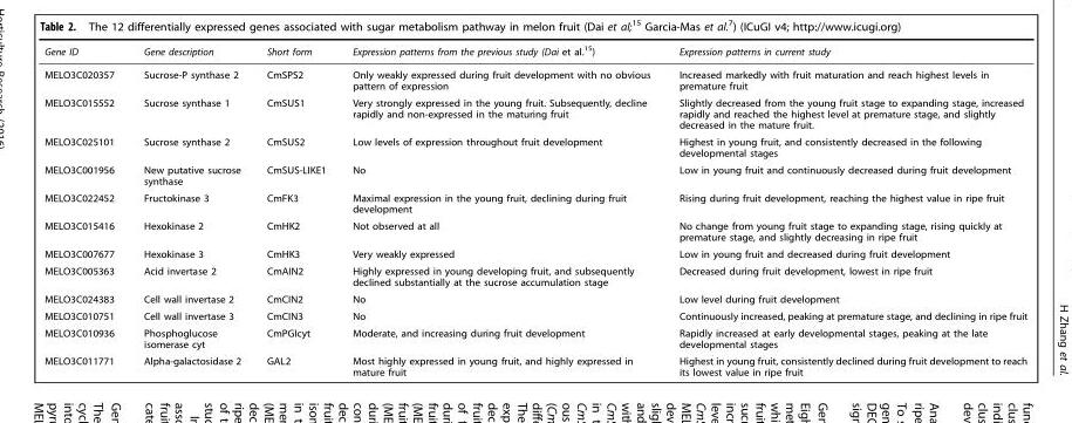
<table><thead><tr><td>Gene ID</td><td>Gene description</td><td>Short form</td><td>Expression patterns from the previous study (Dai et al.<sup>15</sup>)</td><td>Expression patterns in current study</td></tr></thead><tbody><tr><td>MELO3C020357</td><td>Sucrose-P synthase 2</td><td>CmSPS2</td><td>Only weakly expressed during fruit development with no obvious pattern of expression</td><td>Increased markedly with fruit maturation and reach highest levels in premature fruit</td></tr><tr><td>MELO3C015552</td><td>Sucrose synthase 1</td><td>CmSUS1</td><td>Very strongly expressed in the young fruit. Subsequently, decline rapidly and non-expressed in the maturing fruit</td><td>Slightly decreased from the young fruit stage to expanding stage, increased rapidly and reached the highest level at premature stage, and slightly decreased in the mature fruit.</td></tr><tr><td>MELO3C025101</td><td>Sucrose synthase 2</td><td>CmSUS2</td><td>Low levels of expression throughout fruit development</td><td>Highest in young fruit, and consistently decreased in the following developmental stages</td></tr><tr><td>MELO3C001956</td><td>New putative sucrose synthase</td><td>CmSUS-LIKE1</td><td>No</td><td>Low in young fruit and continuously decreased during fruit development</td></tr><tr><td>MELO3C022452</td><td>Fructokinase 3</td><td>CmFK3</td><td>Maximal expression in the young fruit, declining during fruit development</td><td>Rising during fruit development, reaching the highest value in ripe fruit</td></tr><tr><td>MELO3C015416</td><td>Hexokinase 2</td><td>CmHK2</td><td>Not observed at all</td><td>No change from young fruit stage to expanding stage, rising quickly at premature stage, and slightly decreasing in ripe fruit</td></tr><tr><td>MELO3C007677</td><td>Hexokinase 3</td><td>CmHK3</td><td>Very weakly expressed</td><td>Low in young fruit and decreased during fruit development</td></tr><tr><td>MELO3C005363</td><td>Acid invertase 2</td><td>CmAIN2</td><td>Highly expressed in young developing fruit, and subsequently declined substantially at the sucrose accumulation stage</td><td>Decreased during fruit development, lowest in ripe fruit</td></tr><tr><td>MELO3C024383</td><td>Cell wall invertase 2</td><td>CmCIN2</td><td>No</td><td>Low level during fruit development</td></tr><tr><td>MELO3C010751</td><td>Cell wall invertase 3</td><td>CmCIN3</td><td>No</td><td>Continuously increased, peaking at premature stage, and declining in ripe fruit</td></tr><tr><td>MELO3C010936</td><td>Phosphoglucose isomerase cyt</td><td>CmPGIcyt</td><td>Moderate, and increasing during fruit development</td><td>Rapidly increased at early developmental stages, peaking at the late developmental stages</td></tr><tr><td>MELO3C011771</td><td>Alpha-galactosidase 2</td><td>GAL2</td><td>Most highly expressed in young fruit, and highly expressed in mature fruit</td><td>Highest in young fruit, consistently declined during fruit development to reach its lowest value in ripe fruit</td></tr></tbody></table>